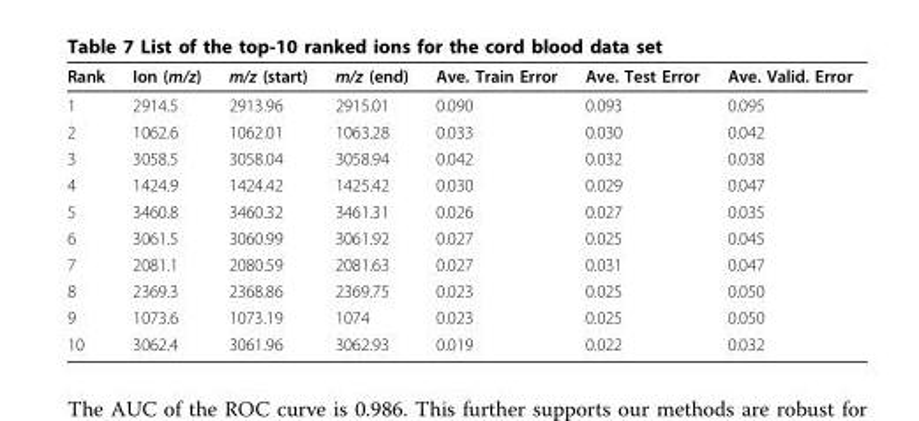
<table><thead><tr><td>Rank</td><td>Ion (m/z)</td><td>m/z (start)</td><td>m/z (end)</td><td>Ave. Train Error</td><td>Ave. Test Error</td><td>Ave. Valid. Error</td></tr></thead><tbody><tr><td>1</td><td>2914.5</td><td>2913.96</td><td>2915.01</td><td>0.090</td><td>0.093</td><td>0.095</td></tr><tr><td>2</td><td>1062.6</td><td>1062.01</td><td>1063.28</td><td>0.033</td><td>0.030</td><td>0.042</td></tr><tr><td>3</td><td>3058.5</td><td>3058.04</td><td>3058.94</td><td>0.042</td><td>0.032</td><td>0.038</td></tr><tr><td>4</td><td>1424.9</td><td>1424.42</td><td>1425.42</td><td>0.030</td><td>0.029</td><td>0.047</td></tr><tr><td>5</td><td>3460.8</td><td>3460.32</td><td>3461.31</td><td>0.026</td><td>0.027</td><td>0.035</td></tr><tr><td>6</td><td>3061.5</td><td>3060.99</td><td>3061.92</td><td>0.027</td><td>0.025</td><td>0.045</td></tr><tr><td>7</td><td>2081.1</td><td>2080.59</td><td>2081.63</td><td>0.027</td><td>0.031</td><td>0.047</td></tr><tr><td>8</td><td>2369.3</td><td>2368.86</td><td>2369.75</td><td>0.023</td><td>0.025</td><td>0.050</td></tr><tr><td>9</td><td>1073.6</td><td>1073.19</td><td>1074</td><td>0.023</td><td>0.025</td><td>0.050</td></tr><tr><td>10</td><td>3062.4</td><td>3061.96</td><td>3062.93</td><td>0.019</td><td>0.022</td><td>0.032</td></tr></tbody></table>